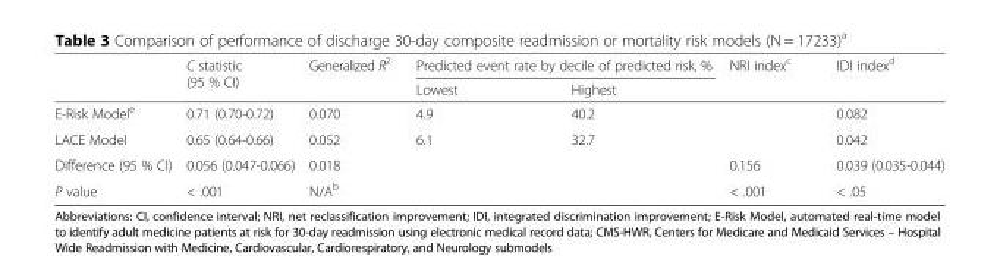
<table><thead><tr><td rowspan="2"></td><td rowspan="2">C statistic (95 % CI)</td><td rowspan="2">Generalized R<sup>2</sup></td><td colspan="2">Predicted event rate by decile of predicted risk, %</td><td rowspan="2">NRI index<sup>c</sup></td><td rowspan="2">IDI index<sup>d</sup></td></tr><tr><td>Lowest</td><td>Highest</td></tr></thead><tbody><tr><td>E-Risk Model<sup>e</sup></td><td>0.71 (0.70-0.72)</td><td>0.070</td><td>4.9</td><td>40.2</td><td></td><td>0.082</td></tr><tr><td>LACE Model</td><td>0.65 (0.64-0.66)</td><td>0.052</td><td>6.1</td><td>32.7</td><td></td><td>0.042</td></tr><tr><td>Difference (95 % CI)</td><td>0.056 (0.047-0.066)</td><td>0.018</td><td></td><td></td><td>0.156</td><td>0.039 (0.035-0.044)</td></tr><tr><td>P value</td><td>&lt; .001</td><td>N/A<sup>b</sup></td><td></td><td></td><td>&lt; .001</td><td>&lt; .05</td></tr></tbody></table>